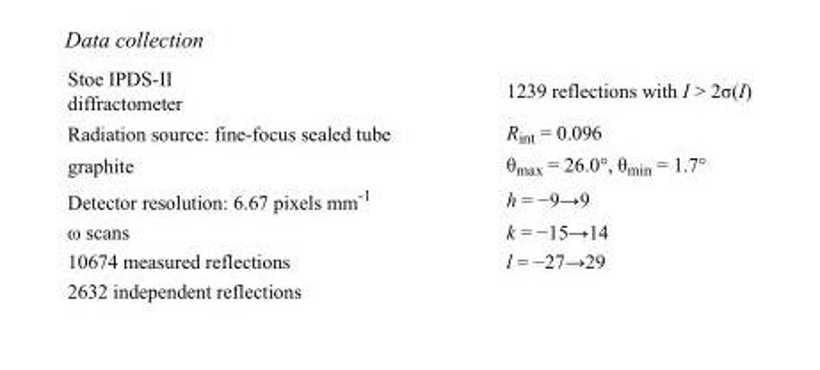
<table><tbody><tr><td>Stoe IPDS-II diffractometer</td><td>1239 reflections with I &gt; 2σ(I)</td></tr><tr><td>Radiation source: fine-focus sealed tube</td><td>R<sub>int</sub> = 0.096</td></tr><tr><td>graphite</td><td>θ<sub>max</sub> = 26.0°, θ<sub>min</sub> = 1.7°</td></tr><tr><td>Detector resolution: 6.67 pixels mm<sup>-1</sup></td><td>h = −9→9</td></tr><tr><td>ω scans</td><td>k = −15→14</td></tr><tr><td>10674 measured reflections</td><td>l = −27→29</td></tr><tr><td>2632 independent reflections</td><td></td></tr></tbody></table>